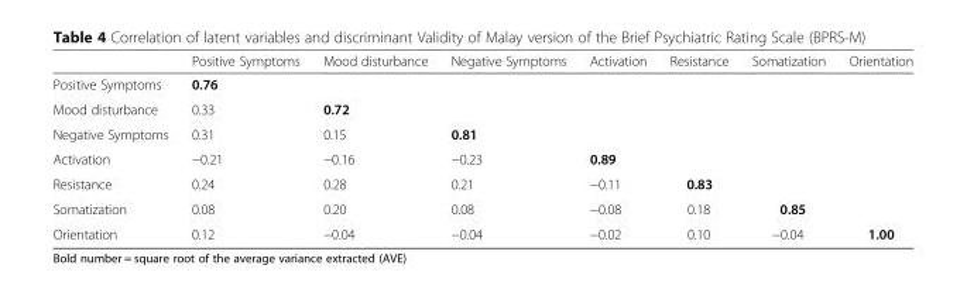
<table><thead><tr><td></td><td>Positive Symptoms</td><td>Mood disturbance</td><td>Negative Symptoms</td><td>Activation</td><td>Resistance</td><td>Somatization</td><td>Orientation</td></tr></thead><tbody><tr><td>Positive Symptoms</td><td>0.76</td><td></td><td></td><td></td><td></td><td></td><td></td></tr><tr><td>Mood disturbance</td><td>0.33</td><td>0.72</td><td></td><td></td><td></td><td></td><td></td></tr><tr><td>Negative Symptoms</td><td>0.31</td><td>0.15</td><td>0.81</td><td></td><td></td><td></td><td></td></tr><tr><td>Activation</td><td>−0.21</td><td>−0.16</td><td>−0.23</td><td>0.89</td><td></td><td></td><td></td></tr><tr><td>Resistance</td><td>0.24</td><td>0.28</td><td>0.21</td><td>−0.11</td><td>0.83</td><td></td><td></td></tr><tr><td>Somatization</td><td>0.08</td><td>0.20</td><td>0.08</td><td>−0.08</td><td>0.18</td><td>0.85</td><td></td></tr><tr><td>Orientation</td><td>0.12</td><td>−0.04</td><td>−0.04</td><td>−0.02</td><td>0.10</td><td>−0.04</td><td>1.00</td></tr></tbody></table>